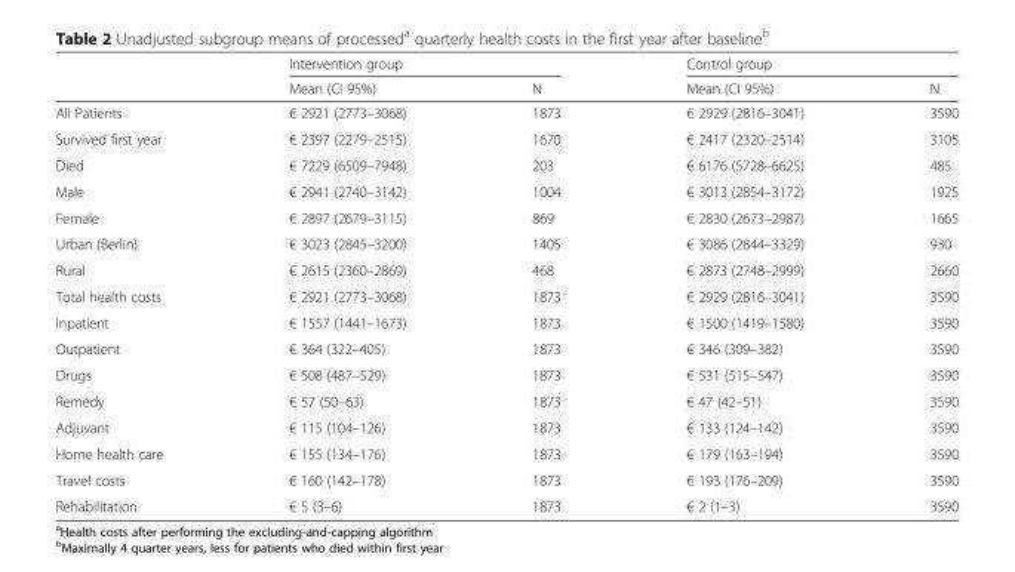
<table><thead><tr><td rowspan="2"></td><td colspan="2">Intervention group</td><td colspan="2">Control group</td></tr><tr><td>Mean (CI 95%)</td><td>N</td><td>Mean (CI 95%)</td><td>N</td></tr></thead><tbody><tr><td>All Patients</td><td>€ 2921 (2773–3068)</td><td>1873</td><td>€ 2929 (2816–3041)</td><td>3590</td></tr><tr><td>Survived first year</td><td>€ 2397 (2279–2515)</td><td>1670</td><td>€ 2417 (2320–2514)</td><td>3105</td></tr><tr><td>Died</td><td>€ 7229 (6509–7948)</td><td>203</td><td>€ 6176 (5728–6625)</td><td>485</td></tr><tr><td>Male</td><td>€ 2941 (2740–3142)</td><td>1004</td><td>€ 3013 (2854–3172)</td><td>1925</td></tr><tr><td>Female</td><td>€ 2897 (2679–3115)</td><td>869</td><td>€ 2830 (2673–2987)</td><td>1665</td></tr><tr><td>Urban (Berlin)</td><td>€ 3023 (2845–3200)</td><td>1405</td><td>€ 3086 (2844–3329)</td><td>930</td></tr><tr><td>Rural</td><td>€ 2615 (2360–2869)</td><td>468</td><td>€ 2873 (2748–2999)</td><td>2660</td></tr><tr><td>Total health costs</td><td>€ 2921 (2773–3068)</td><td>1873</td><td>€ 2929 (2816–3041)</td><td>3590</td></tr><tr><td>Inpatient</td><td>€ 1557 (1441–1673)</td><td>1873</td><td>€ 1500 (1419–1580)</td><td>3590</td></tr><tr><td>Outpatient</td><td>€ 364 (322–405)</td><td>1873</td><td>€ 346 (309–382)</td><td>3590</td></tr><tr><td>Drugs</td><td>€ 508 (487–529)</td><td>1873</td><td>€ 531 (515–547)</td><td>3590</td></tr><tr><td>Remedy</td><td>€ 57 (50–63)</td><td>1873</td><td>€ 47 (42–51)</td><td>3590</td></tr><tr><td>Adjuvant</td><td>€ 115 (104–126)</td><td>1873</td><td>€ 133 (124–142)</td><td>3590</td></tr><tr><td>Home health care</td><td>€ 155 (134–176)</td><td>1873</td><td>€ 179 (163–194)</td><td>3590</td></tr><tr><td>Travel costs</td><td>€ 160 (142–178)</td><td>1873</td><td>€ 193 (176–209)</td><td>3590</td></tr><tr><td>Rehabilitation</td><td>€ 5 (3–6)</td><td>1873</td><td>€ 2 (1–3)</td><td>3590</td></tr></tbody></table>